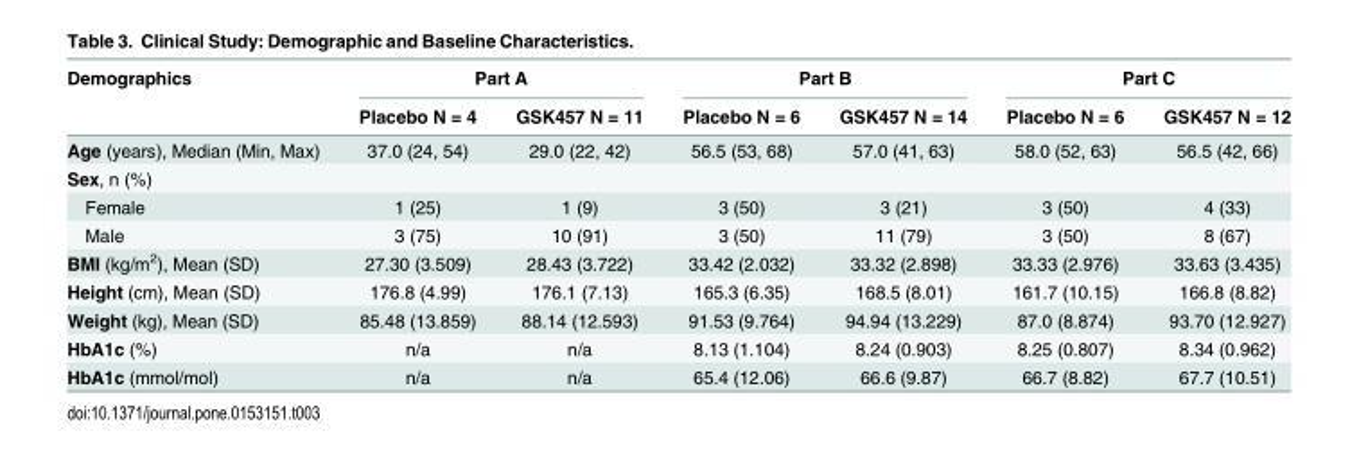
<table><thead><tr><td rowspan="2">Demographics</td><td colspan="2">Part A</td><td colspan="2">Part B</td><td colspan="2">Part C</td></tr><tr><td>Placebo N = 4</td><td>GSK457 N = 11</td><td>Placebo N = 6</td><td>GSK457 N = 14</td><td>Placebo N = 6</td><td>GSK457 N = 12</td></tr></thead><tbody><tr><td>Age (years), Median (Min, Max)</td><td>37.0 (24, 54)</td><td>29.0 (22, 42)</td><td>56.5 (53, 68)</td><td>57.0 (41, 63)</td><td>58.0 (52, 63)</td><td>56.5 (42, 66)</td></tr><tr><td colspan="7">Sex, n (%)</td></tr><tr><td>Female</td><td>1 (25)</td><td>1 (9)</td><td>3 (50)</td><td>3 (21)</td><td>3 (50)</td><td>4 (33)</td></tr><tr><td>Male</td><td>3 (75)</td><td>10 (91)</td><td>3 (50)</td><td>11 (79)</td><td>3 (50)</td><td>8 (67)</td></tr><tr><td>BMI (kg/m<sup>2</sup>), Mean (SD)</td><td>27.30 (3.509)</td><td>28.43 (3.722)</td><td>33.42 (2.032)</td><td>33.32 (2.898)</td><td>33.33 (2.976)</td><td>33.63 (3.435)</td></tr><tr><td>Height (cm), Mean (SD)</td><td>176.8 (4.99)</td><td>176.1 (7.13)</td><td>165.3 (6.35)</td><td>168.5 (8.01)</td><td>161.7 (10.15)</td><td>166.8 (8.82)</td></tr><tr><td>Weight (kg), Mean (SD)</td><td>85.48 (13.859)</td><td>88.14 (12.593)</td><td>91.53 (9.764)</td><td>94.94 (13.229)</td><td>87.0 (8.874)</td><td>93.70 (12.927)</td></tr><tr><td>HbA1c (%)</td><td>n/a</td><td>n/a</td><td>8.13 (1.104)</td><td>8.24 (0.903)</td><td>8.25 (0.807)</td><td>8.34 (0.962)</td></tr><tr><td>HbA1c (mmol/mol)</td><td>n/a</td><td>n/a</td><td>65.4 (12.06)</td><td>66.6 (9.87)</td><td>66.7 (8.82)</td><td>67.7 (10.51)</td></tr></tbody></table>